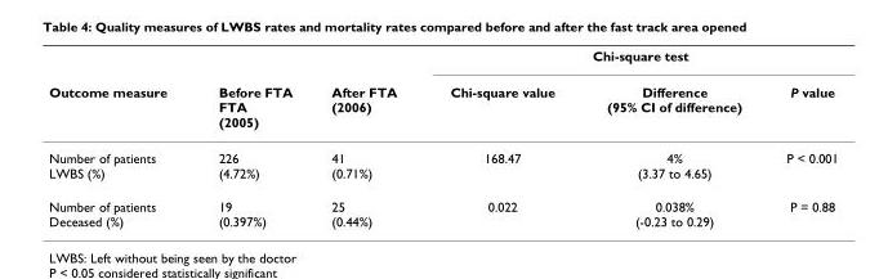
<table><thead><tr><td rowspan="2">Outcome measure</td><td rowspan="2">Before FTA FTA (2005)</td><td rowspan="2">After FTA (2006)</td><td colspan="3">Chi-square test</td></tr><tr><td>Chi-square value</td><td>Difference (95% CI of difference)</td><td>P value</td></tr></thead><tbody><tr><td>Number of patients LWBS (%)</td><td>226 (4.72%)</td><td>41 (0.71%)</td><td>168.47</td><td>4% (3.37 to 4.65)</td><td>P &lt; 0.001</td></tr><tr><td>Number of patients Deceased (%)</td><td>19 (0.397%)</td><td>25 (0.44%)</td><td>0.022</td><td>0.038% (-0.23 to 0.29)</td><td>P = 0.88</td></tr></tbody></table>